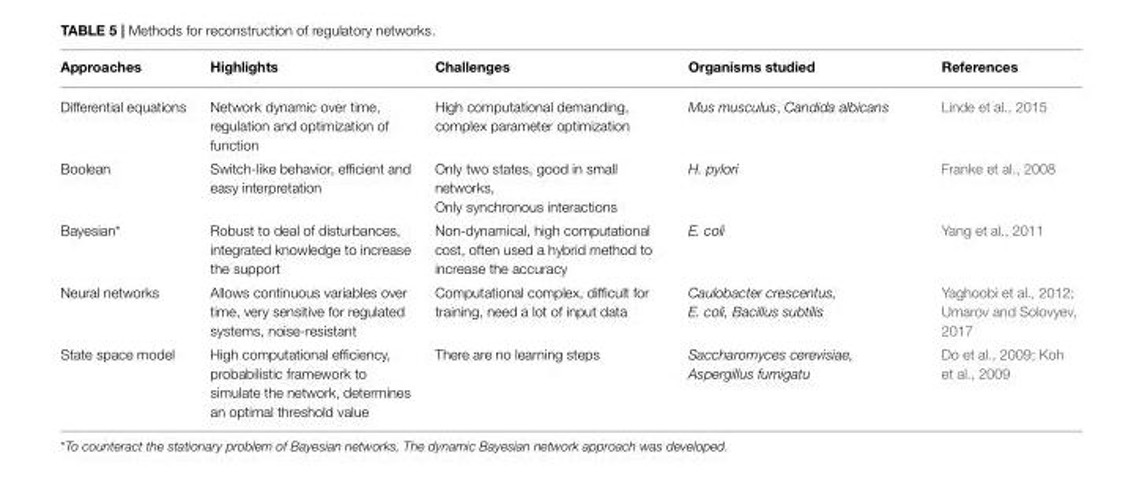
<table><thead><tr><td>Approaches</td><td>Highlights</td><td>Challenges</td><td>Organisms studied</td><td>References</td></tr></thead><tbody><tr><td>Differential equations</td><td>Network dynamic over time, regulation and optimization of function</td><td>High computational demanding, complex parameter optimization</td><td>Mus musculus, Candida albicans</td><td>Linde et al., 2015</td></tr><tr><td>Boolean</td><td>Switch-like behavior, efficient and easy interpretation</td><td>Only two states, good in small networks, Only synchronous interactions</td><td>H. pylori</td><td>Franke et al., 2008</td></tr><tr><td>Bayesian*</td><td>Robust to deal of disturbances, integrated knowledge to increase the support</td><td>Non-dynamical, high computational cost, often used a hybrid method to increase the accuracy</td><td>E. coli</td><td>Yang et al., 2011</td></tr><tr><td>Neural networks</td><td>Allows continuous variables over time, very sensitive for regulated systems, noise-resistant</td><td>Computational complex, difficult for training, need a lot of input data</td><td>Caulobacter crescentus, E. coli, Bacillus subtilis</td><td>Yaghoobi et al., 2012; Umarov and Solovyev, 2017</td></tr><tr><td>State space model</td><td>High computational efficiency, probabilistic framework to simulate the network, determines an optimal threshold value</td><td>There are no learning steps</td><td>Saccharomyces cerevisiae, Aspergillus fumigatu</td><td>Do et al., 2009; Koh et al., 2009</td></tr></tbody></table>